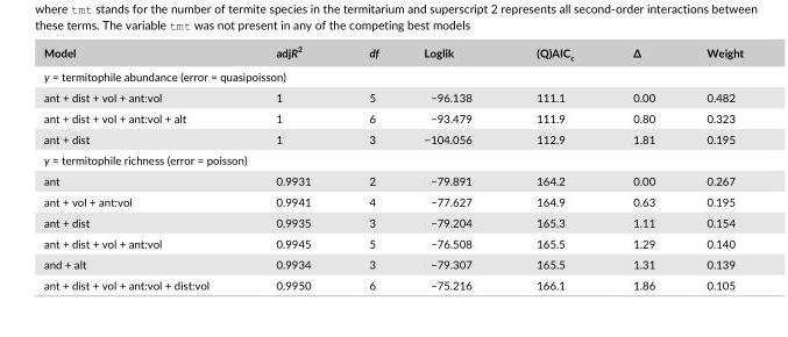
<table><thead><tr><td>Model</td><td>adjR<sup>2</sup></td><td>df</td><td>Loglik</td><td>(Q)AIC<sub>c</sub></td><td>∆</td><td>Weight</td></tr></thead><tbody><tr><td colspan="7">y = termitophile abundance (error = quasipoisson)</td></tr><tr><td>ant + dist + vol + ant:vol</td><td>1</td><td>5</td><td>−96.138</td><td>111.1</td><td>0.00</td><td>0.482</td></tr><tr><td>ant + dist + vol + ant:vol + alt</td><td>1</td><td>6</td><td>−93.479</td><td>111.9</td><td>0.80</td><td>0.323</td></tr><tr><td>ant + dist</td><td>1</td><td>3</td><td>−104.056</td><td>112.9</td><td>1.81</td><td>0.195</td></tr><tr><td colspan="7">y = termitophile richness (error = poisson)</td></tr><tr><td>ant</td><td>0.9931</td><td>2</td><td>−79.891</td><td>164.2</td><td>0.00</td><td>0.267</td></tr><tr><td>ant + vol + ant:vol</td><td>0.9941</td><td>4</td><td>−77.627</td><td>164.9</td><td>0.63</td><td>0.195</td></tr><tr><td>ant + dist</td><td>0.9935</td><td>3</td><td>−79.204</td><td>165.3</td><td>1.11</td><td>0.154</td></tr><tr><td>ant + dist + vol + ant:vol</td><td>0.9945</td><td>5</td><td>−76.508</td><td>165.5</td><td>1.29</td><td>0.140</td></tr><tr><td>and + alt</td><td>0.9934</td><td>3</td><td>−79.307</td><td>165.5</td><td>1.31</td><td>0.139</td></tr><tr><td>ant + dist + vol + ant:vol + dist:vol</td><td>0.9950</td><td>6</td><td>−75.216</td><td>166.1</td><td>1.86</td><td>0.105</td></tr></tbody></table>